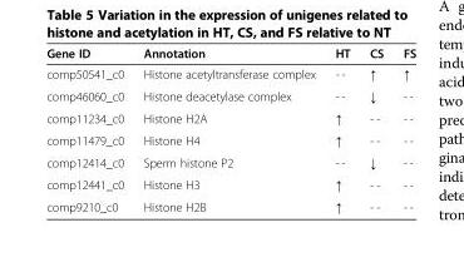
<table><thead><tr><td>Gene ID</td><td>Annotation</td><td>HT</td><td>CS</td><td>FS</td></tr></thead><tbody><tr><td>comp50541_c0</td><td>Histone acetyltransferase complex</td><td>- -</td><td>↑</td><td>↑</td></tr><tr><td>comp46060_c0</td><td>Histone deacetylase complex</td><td>- -</td><td>↓</td><td>- -</td></tr><tr><td>comp11234_c0</td><td>Histone H2A</td><td>↑</td><td>- -</td><td>- -</td></tr><tr><td>comp11479_c0</td><td>Histone H4</td><td>↑</td><td>- -</td><td>- -</td></tr><tr><td>comp12414_c0</td><td>Sperm histone P2</td><td>- -</td><td>↓</td><td>- -</td></tr><tr><td>comp12441_c0</td><td>Histone H3</td><td>↑</td><td>- -</td><td>- -</td></tr><tr><td>comp9210_c0</td><td>Histone H2B</td><td>↑</td><td>- -</td><td>- -</td></tr></tbody></table>